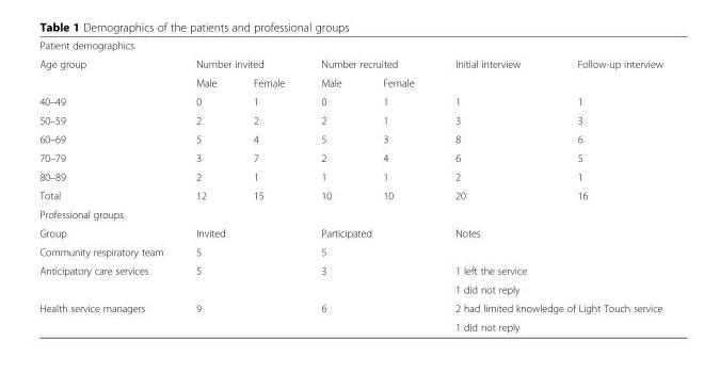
<table><tbody><tr><td colspan="7">Patient demographics</td></tr><tr><td rowspan="2">Age group</td><td colspan="2">Number invited</td><td colspan="2">Number recruited</td><td rowspan="2">Initial interview</td><td rowspan="2">Follow-up interview</td></tr><tr><td>Male</td><td>Female</td><td>Male</td><td>Female</td></tr><tr><td>40–49</td><td>0</td><td>1</td><td>0</td><td>1</td><td>1</td><td>1</td></tr><tr><td>50–59</td><td>2</td><td>2</td><td>2</td><td>1</td><td>3</td><td>3</td></tr><tr><td>60–69</td><td>5</td><td>4</td><td>5</td><td>3</td><td>8</td><td>6</td></tr><tr><td>70–79</td><td>3</td><td>7</td><td>2</td><td>4</td><td>6</td><td>5</td></tr><tr><td>80–89</td><td>2</td><td>1</td><td>1</td><td>1</td><td>2</td><td>1</td></tr><tr><td>Total</td><td>12</td><td>15</td><td>10</td><td>10</td><td>20</td><td>16</td></tr><tr><td colspan="7">Professional groups</td></tr><tr><td>Group</td><td colspan="2">Invited</td><td colspan="2">Participated</td><td colspan="2">Notes</td></tr><tr><td>Community respiratory team</td><td colspan="2">5</td><td colspan="2">5</td><td colspan="2"></td></tr><tr><td rowspan="2">Anticipatory care services</td><td rowspan="2" colspan="2">5</td><td rowspan="2" colspan="2">3</td><td colspan="2">1 left the service</td></tr><tr><td colspan="2">1 did not reply</td></tr><tr><td rowspan="2">Health service managers</td><td rowspan="2" colspan="2">9</td><td rowspan="2" colspan="2">6</td><td colspan="2">2 had limited knowledge of Light Touch service</td></tr><tr><td colspan="2">1 did not reply</td></tr></tbody></table>